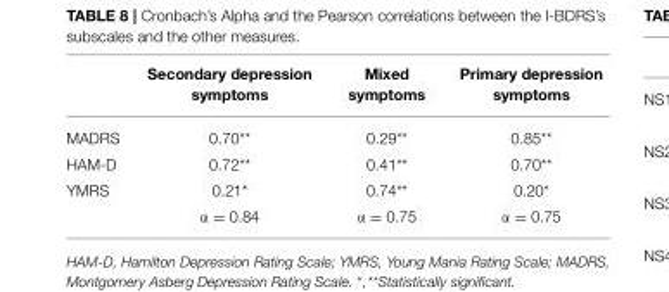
<table><thead><tr><td></td><td>Secondary depression symptoms</td><td>Mixed symptoms</td><td>Primary depression symptoms</td></tr></thead><tbody><tr><td>MADRS</td><td>0.70**</td><td>0.29**</td><td>0.85**</td></tr><tr><td>HAM-D</td><td>0.72**</td><td>0.41**</td><td>0.70**</td></tr><tr><td rowspan="2">YMRS</td><td>0.21*</td><td>0.74**</td><td>0.20*</td></tr><tr><td>α = 0.84</td><td>α = 0.75</td><td>α = 0.75</td></tr></tbody></table>